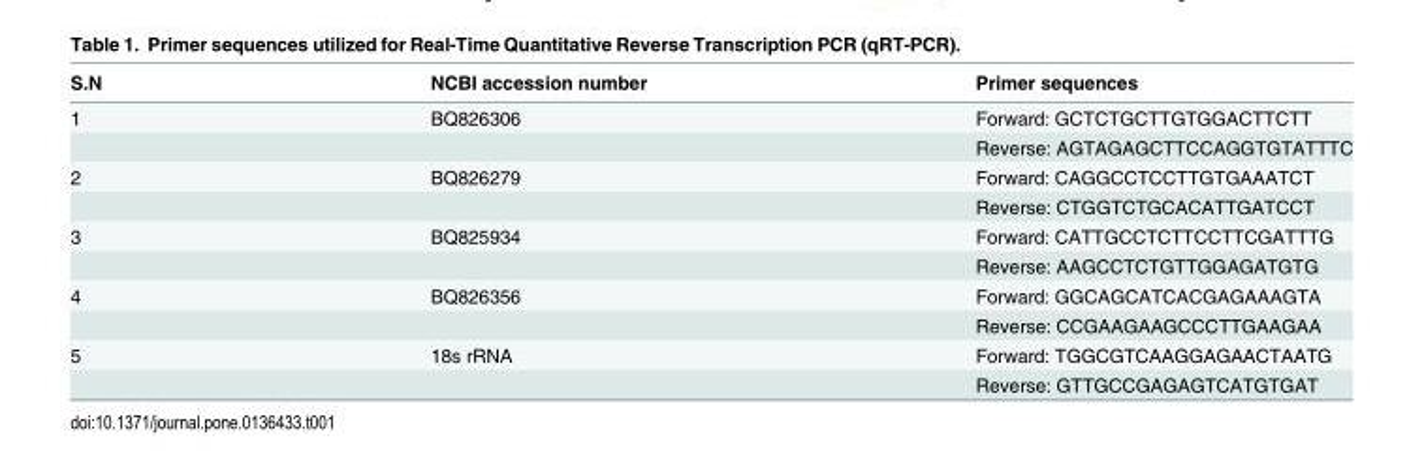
<table><thead><tr><td>S.N</td><td>NCBI accession number</td><td>Primer sequences</td></tr></thead><tbody><tr><td rowspan="2">1</td><td>BQ826306</td><td>Forward: GCTCTGCTTGTGGACTTCTT</td></tr><tr><td></td><td>Reverse: AGTAGAGCTTCCAGGTGTATTTC</td></tr><tr><td rowspan="2">2</td><td>BQ826279</td><td>Forward: CAGGCCTCCTTGTGAAATCT</td></tr><tr><td></td><td>Reverse: CTGGTCTGCACATTGATCCT</td></tr><tr><td rowspan="2">3</td><td>BQ825934</td><td>Forward: CATTGCCTCTTCCTTCGATTTG</td></tr><tr><td></td><td>Reverse: AAGCCTCTGTTGGAGATGTG</td></tr><tr><td rowspan="2">4</td><td>BQ826356</td><td>Forward: GGCAGCATCACGAGAAAGTA</td></tr><tr><td></td><td>Reverse: CCGAAGAAGCCCTTGAAGAA</td></tr><tr><td rowspan="2">5</td><td>18s rRNA</td><td>Forward: TGGCGTCAAGGAGAACTAATG</td></tr><tr><td></td><td>Reverse: GTTGCCGAGAGTCATGTGAT</td></tr></tbody></table>